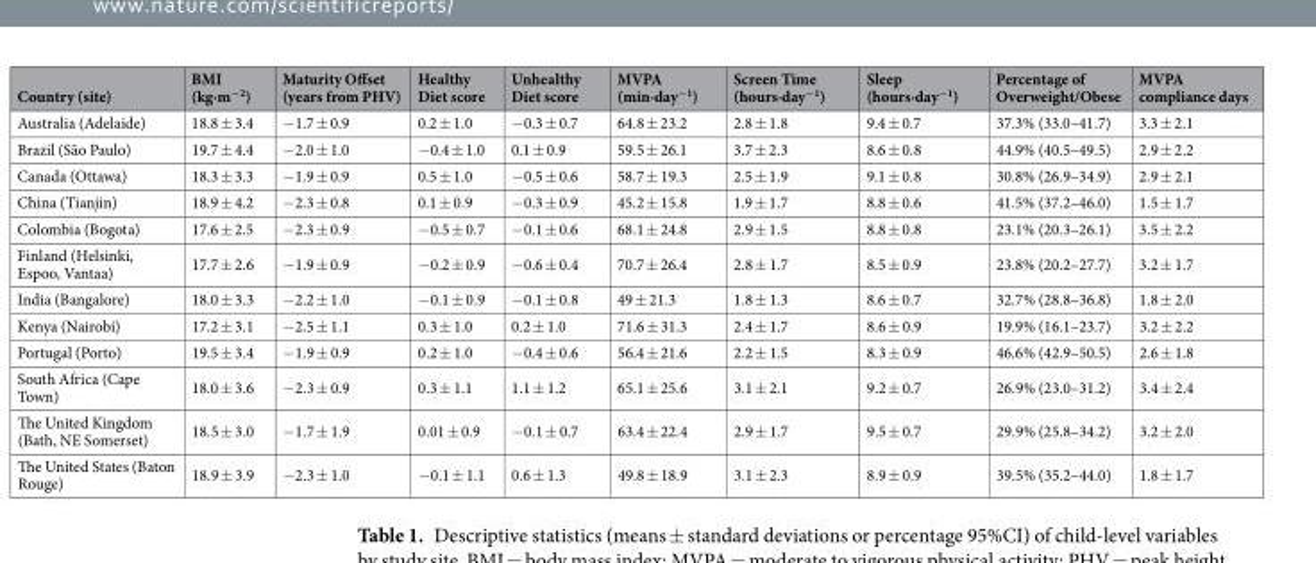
<table><thead><tr><td>Country (site)</td><td>BMI (kg∙m<sup>−2</sup>)</td><td>Maturity Offset (years from PHV)</td><td>Healthy Diet score</td><td>Unhealthy Diet score</td><td>MVPA (min∙day<sup>−1</sup>)</td><td>Screen Time (hours∙day<sup>−1</sup>)</td><td>Sleep (hours∙day<sup>−1</sup>)</td><td>Percentage of Overweight/Obese</td><td>MVPA compliance days</td></tr></thead><tbody><tr><td>Australia (Adelaide)</td><td>18.8 ± 3.4</td><td>−1.7 ± 0.9</td><td>0.2 ± 1.0</td><td>−0.3 ± 0.7</td><td>64.8 ± 23.2</td><td>2.8 ± 1.8</td><td>9.4 ± 0.7</td><td>37.3% (33.0–41.7)</td><td>3.3 ± 2.1</td></tr><tr><td>Brazil (São Paulo)</td><td>19.7 ± 4.4</td><td>−2.0 ± 1.0</td><td>−0.4 ± 1.0</td><td>0.1 ± 0.9</td><td>59.5 ± 26.1</td><td>3.7 ± 2.3</td><td>8.6 ± 0.8</td><td>44.9% (40.5–49.5)</td><td>2.9 ± 2.2</td></tr><tr><td>Canada (Ottawa)</td><td>18.3 ± 3.3</td><td>−1.9 ± 0.9</td><td>0.5 ± 1.0</td><td>−0.5 ± 0.6</td><td>58.7 ± 19.3</td><td>2.5 ± 1.9</td><td>9.1 ± 0.8</td><td>30.8% (26.9–34.9)</td><td>2.9 ± 2.1</td></tr><tr><td>China (Tianjin)</td><td>18.9 ± 4.2</td><td>−2.3 ± 0.8</td><td>0.1 ± 0.9</td><td>−0.3 ± 0.9</td><td>45.2 ± 15.8</td><td>1.9 ± 1.7</td><td>8.8 ± 0.6</td><td>41.5% (37.2–46.0)</td><td>1.5 ± 1.7</td></tr><tr><td>Colombia (Bogota)</td><td>17.6 ± 2.5</td><td>−2.3 ± 0.9</td><td>−0.5 ± 0.7</td><td>−0.1 ± 0.6</td><td>68.1 ± 24.8</td><td>2.9 ± 1.5</td><td>8.8 ± 0.8</td><td>23.1% (20.3–26.1)</td><td>3.5 ± 2.2</td></tr><tr><td>Finland (Helsinki, Espoo, Vantaa)</td><td>17.7 ± 2.6</td><td>−1.9 ± 0.9</td><td>−0.2 ± 0.9</td><td>−0.6 ± 0.4</td><td>70.7 ± 26.4</td><td>2.8 ± 1.7</td><td>8.5 ± 0.9</td><td>23.8% (20.2–27.7)</td><td>3.2 ± 1.7</td></tr><tr><td>India (Bangalore)</td><td>18.0 ± 3.3</td><td>−2.2 ± 1.0</td><td>−0.1 ± 0.9</td><td>−0.1 ± 0.8</td><td>49 ± 21.3</td><td>1.8 ± 1.3</td><td>8.6 ± 0.7</td><td>32.7% (28.8–36.8)</td><td>1.8 ± 2.0</td></tr><tr><td>Kenya (Nairobi)</td><td>17.2 ± 3.1</td><td>−2.5 ± 1.1</td><td>0.3 ± 1.0</td><td>0.2 ± 1.0</td><td>71.6 ± 31.3</td><td>2.4 ± 1.7</td><td>8.6 ± 0.9</td><td>19.9% (16.1–23.7)</td><td>3.2 ± 2.2</td></tr><tr><td>Portugal (Porto)</td><td>19.5 ± 3.4</td><td>−1.9 ± 0.9</td><td>0.2 ± 1.0</td><td>−0.4 ± 0.6</td><td>56.4 ± 21.6</td><td>2.2 ± 1.5</td><td>8.3 ± 0.9</td><td>46.6% (42.9–50.5)</td><td>2.6 ± 1.8</td></tr><tr><td>South Africa (Cape Town)</td><td>18.0 ± 3.6</td><td>−2.3 ± 0.9</td><td>0.3 ± 1.1</td><td>1.1 ± 1.2</td><td>65.1 ± 25.6</td><td>3.1 ± 2.1</td><td>9.2 ± 0.7</td><td>26.9% (23.0–31.2)</td><td>3.4 ± 2.4</td></tr><tr><td>The United Kingdom (Bath, NE Somerset)</td><td>18.5 ± 3.0</td><td>−1.7 ± 1.9</td><td>0.01 ± 0.9</td><td>−0.1 ± 0.7</td><td>63.4 ± 22.4</td><td>2.9 ± 1.7</td><td>9.5 ± 0.7</td><td>29.9% (25.8–34.2)</td><td>3.2 ± 2.0</td></tr><tr><td>The United States (Baton Rouge)</td><td>18.9 ± 3.9</td><td>−2.3 ± 1.0</td><td>−0.1 ± 1.1</td><td>0.6 ± 1.3</td><td>49.8 ± 18.9</td><td>3.1 ± 2.3</td><td>8.9 ± 0.9</td><td>39.5% (35.2–44.0)</td><td>1.8 ± 1.7</td></tr></tbody></table>